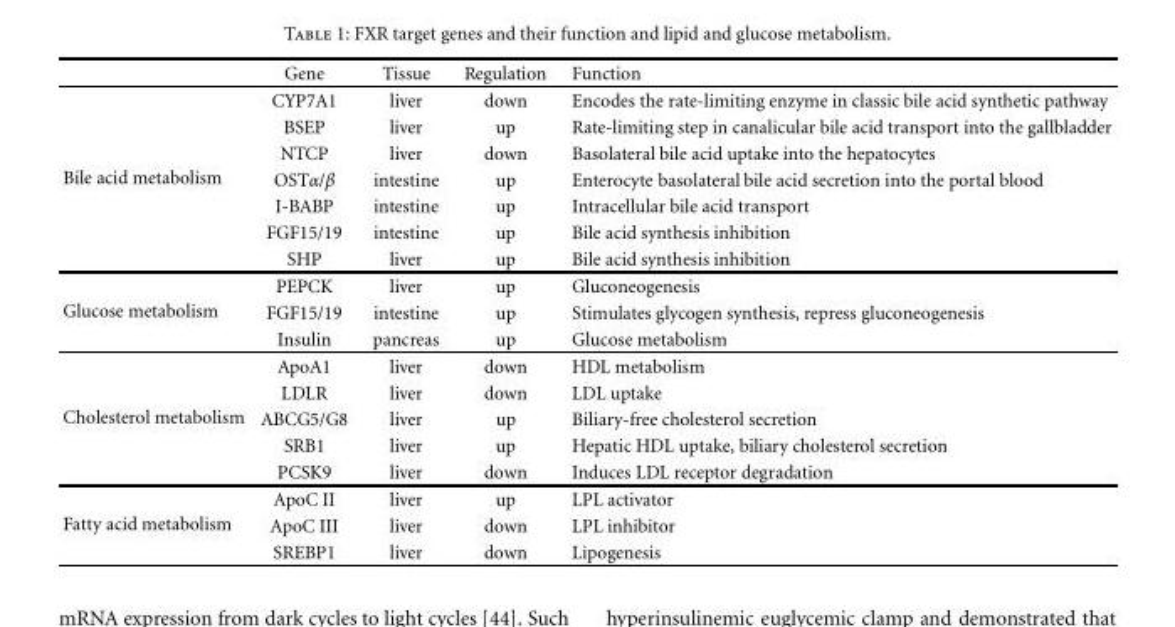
<table><thead><tr><td></td><td>Gene</td><td>Tissue</td><td>Regulation</td><td>Function</td></tr></thead><tbody><tr><td rowspan="7">Bile acid metabolism</td><td>CYP7A1</td><td>liver</td><td>down</td><td>Encodes the rate-limiting enzyme in classic bile acid synthetic pathway</td></tr><tr><td>BSEP</td><td>liver</td><td>up</td><td>Rate-limiting step in canalicular bile acid transport into the gallbladder</td></tr><tr><td>NTCP</td><td>liver</td><td>down</td><td>Basolateral bile acid uptake into the hepatocytes</td></tr><tr><td>OSTα/β</td><td>intestine</td><td>up</td><td>Enterocyte basolateral bile acid secretion into the portal blood</td></tr><tr><td>I-BABP</td><td>intestine</td><td>up</td><td>Intracellular bile acid transport</td></tr><tr><td>FGF15/19</td><td>intestine</td><td>up</td><td>Bile acid synthesis inhibition</td></tr><tr><td>SHP</td><td>liver</td><td>up</td><td>Bile acid synthesis inhibition</td></tr><tr><td rowspan="3">Glucose metabolism</td><td>PEPCK</td><td>liver</td><td>up</td><td>Gluconeogenesis</td></tr><tr><td>FGF15/19</td><td>intestine</td><td>up</td><td>Stimulates glycogen synthesis, repress gluconeogenesis</td></tr><tr><td>Insulin</td><td>pancreas</td><td>up</td><td>Glucose metabolism</td></tr><tr><td rowspan="5">Cholesterol metabolism</td><td>ApoA1</td><td>liver</td><td>down</td><td>HDL metabolism</td></tr><tr><td>LDLR</td><td>liver</td><td>down</td><td>LDL uptake</td></tr><tr><td>ABCG5/G8</td><td>liver</td><td>up</td><td>Biliary-free cholesterol secretion</td></tr><tr><td>SRB1</td><td>liver</td><td>up</td><td>Hepatic HDL uptake, biliary cholesterol secretion</td></tr><tr><td>PCSK9</td><td>liver</td><td>down</td><td>Induces LDL receptor degradation</td></tr><tr><td rowspan="3">Fatty acid metabolism</td><td>ApoC II</td><td>liver</td><td>up</td><td>LPL activator</td></tr><tr><td>ApoC III</td><td>liver</td><td>down</td><td>LPL inhibitor</td></tr><tr><td>SREBP1</td><td>liver</td><td>down</td><td>Lipogenesis</td></tr></tbody></table>